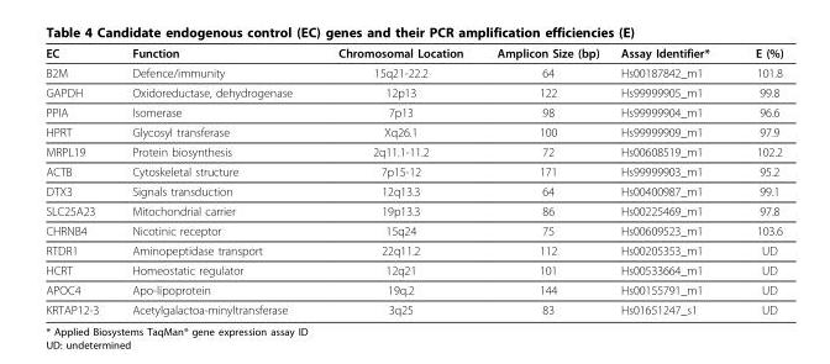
<table><thead><tr><td>EC</td><td>Function</td><td>Chromosomal Location</td><td>Amplicon Size (bp)</td><td>Assay Identifier*</td><td>E (%)</td></tr></thead><tbody><tr><td>B2M</td><td>Defence/immunity</td><td>15q21-22.2</td><td>64</td><td>Hs00187842_m1</td><td>101.8</td></tr><tr><td>GAPDH</td><td>Oxidoreductase, dehydrogenase</td><td>12p13</td><td>122</td><td>Hs99999905_m1</td><td>99.8</td></tr><tr><td>PPIA</td><td>Isomerase</td><td>7p13</td><td>98</td><td>Hs99999904_m1</td><td>96.6</td></tr><tr><td>HPRT</td><td>Glycosyl transferase</td><td>Xq26.1</td><td>100</td><td>Hs99999909_m1</td><td>97.9</td></tr><tr><td>MRPL19</td><td>Protein biosynthesis</td><td>2q11.1-11.2</td><td>72</td><td>Hs00608519_m1</td><td>102.2</td></tr><tr><td>ACTB</td><td>Cytoskeletal structure</td><td>7p15-12</td><td>171</td><td>Hs99999903_m1</td><td>95.2</td></tr><tr><td>DTX3</td><td>Signals transduction</td><td>12q13.3</td><td>64</td><td>Hs00400987_m1</td><td>99.1</td></tr><tr><td>SLC25A23</td><td>Mitochondrial carrier</td><td>19p13.3</td><td>86</td><td>Hs00225469_m1</td><td>97.8</td></tr><tr><td>CHRNB4</td><td>Nicotinic receptor</td><td>15q24</td><td>75</td><td>Hs00609523_m1</td><td>103.6</td></tr><tr><td>RTDR1</td><td>Aminopeptidase transport</td><td>22q11.2</td><td>112</td><td>Hs00205353_m1</td><td>UD</td></tr><tr><td>HCRT</td><td>Homeostatic regulator</td><td>12q21</td><td>101</td><td>Hs00533664_m1</td><td>UD</td></tr><tr><td>APOC4</td><td>Apo-lipoprotein</td><td>19q.2</td><td>144</td><td>Hs00155791_m1</td><td>UD</td></tr><tr><td>KRTAP12-3</td><td>Acetylgalactoa-minyltransferase</td><td>3q25</td><td>83</td><td>Hs01651247_s1</td><td>UD</td></tr></tbody></table>